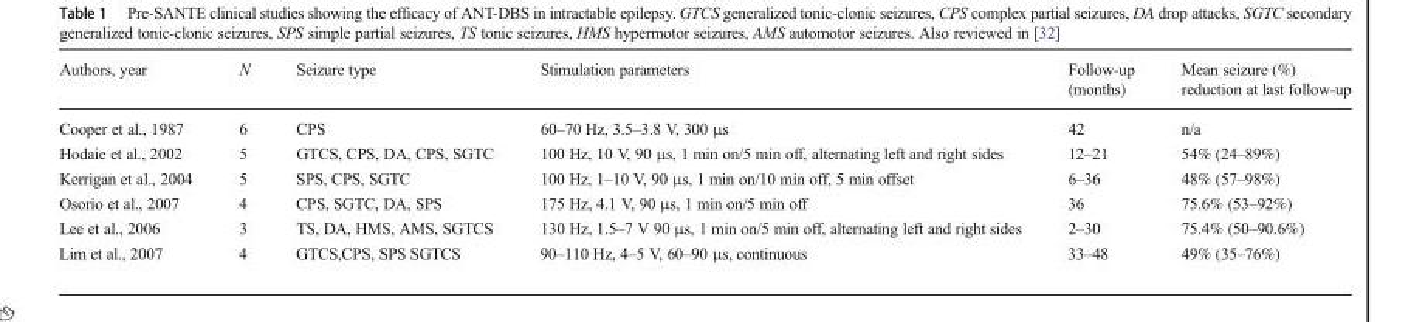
<table><thead><tr><td>Authors, year</td><td>N</td><td>Seizure type</td><td>Stimulation parameters</td><td>Follow-up (months)</td><td>Mean seizure (%) reduction at last follow-up</td></tr></thead><tbody><tr><td>Cooper et al., 1987</td><td>6</td><td>CPS</td><td>60–70 Hz, 3.5–3.8 V, 300 μs</td><td>42</td><td>n/a</td></tr><tr><td>Hodaie et al., 2002</td><td>5</td><td>GTCS, CPS, DA, CPS, SGTC</td><td>100 Hz, 10 V, 90 μs, 1 min on/5 min off, alternating left and right sides</td><td>12–21</td><td>54% (24–89%)</td></tr><tr><td>Kerrigan et al., 2004</td><td>5</td><td>SPS, CPS, SGTC</td><td>100 Hz, 1–10 V, 90 μs, 1 min on/10 min off, 5 min offset</td><td>6–36</td><td>48% (57–98%)</td></tr><tr><td>Osorio et al., 2007</td><td>4</td><td>CPS, SGTC, DA, SPS</td><td>175 Hz, 4.1 V, 90 μs, 1 min on/5 min off</td><td>36</td><td>75.6% (53–92%)</td></tr><tr><td>Lee et al., 2006</td><td>3</td><td>TS, DA, HMS, AMS, SGTCS</td><td>130 Hz, 1.5–7 V 90 μs, 1 min on/5 min off, alternating left and right sides</td><td>2–30</td><td>75.4% (50–90.6%)</td></tr><tr><td>Lim et al., 2007</td><td>4</td><td>GTCS,CPS, SPS SGTCS</td><td>90–110 Hz, 4–5 V, 60–90 μs, continuous</td><td>33–48</td><td>49% (35–76%)</td></tr></tbody></table>